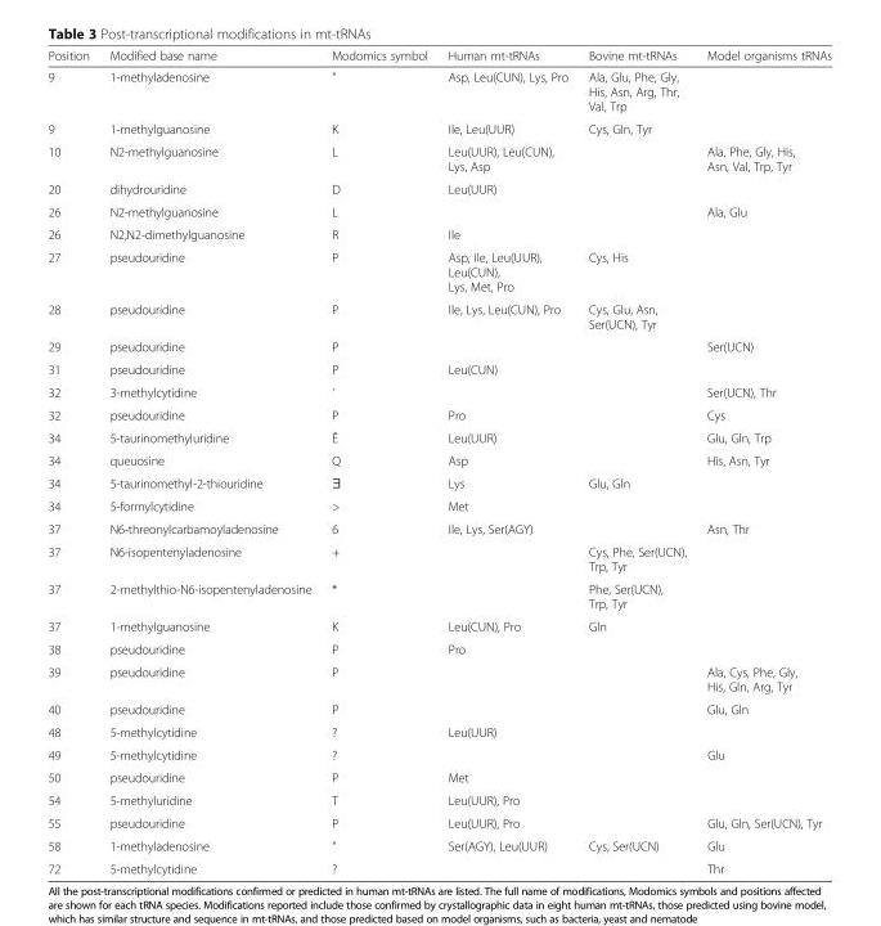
<table><thead><tr><td>Position</td><td>Modified base name</td><td>Modomics symbol</td><td>Human mt-tRNAs</td><td>Bovine mt-tRNAs</td><td>Model organisms tRNAs</td></tr></thead><tbody><tr><td>9</td><td>1-methyladenosine</td><td>”</td><td>Asp, Leu(CUN), Lys, Pro</td><td>Ala, Glu, Phe, Gly, His, Asn, Arg, Thr, Val, Trp</td><td></td></tr><tr><td>9</td><td>1-methylguanosine</td><td>K</td><td>Ile, Leu(UUR)</td><td>Cys, Gln, Tyr</td><td></td></tr><tr><td>10</td><td>N2-methylguanosine</td><td>L</td><td>Leu(UUR), Leu(CUN), Lys, Asp</td><td></td><td>Ala, Phe, Gly, His, Asn, Val, Trp, Tyr</td></tr><tr><td>20</td><td>dihydrouridine</td><td>D</td><td>Leu(UUR)</td><td></td><td></td></tr><tr><td>26</td><td>N2-methylguanosine</td><td>L</td><td></td><td></td><td>Ala, Glu</td></tr><tr><td>26</td><td>N2,N2-dimethylguanosine</td><td>R</td><td>Ile</td><td></td><td></td></tr><tr><td>27</td><td>pseudouridine</td><td>P</td><td>Asp, Ile, Leu(UUR), Leu(CUN), Lys, Met, Pro</td><td>Cys, His</td><td></td></tr><tr><td>28</td><td>pseudouridine</td><td>P</td><td>Ile, Lys, Leu(CUN), Pro</td><td>Cys, Glu, Asn, Ser(UCN), Tyr</td><td></td></tr><tr><td>29</td><td>pseudouridine</td><td>P</td><td></td><td></td><td>Ser(UCN)</td></tr><tr><td>31</td><td>pseudouridine</td><td>P</td><td>Leu(CUN)</td><td></td><td></td></tr><tr><td>32</td><td>3-methylcytidine</td><td>’</td><td></td><td></td><td>Ser(UCN), Thr</td></tr><tr><td>32</td><td>pseudouridine</td><td>P</td><td>Pro</td><td></td><td>Cys</td></tr><tr><td>34</td><td>5-taurinomethyluridine</td><td>Ê</td><td>Leu(UUR)</td><td></td><td>Glu, Gln, Trp</td></tr><tr><td>34</td><td>queuosine</td><td>Q</td><td>Asp</td><td></td><td>His, Asn, Tyr</td></tr><tr><td>34</td><td>5-taurinomethyl-2-thiouridine</td><td>Ǝ</td><td>Lys</td><td>Glu, Gln</td><td></td></tr><tr><td>34</td><td>5-formylcytidine</td><td>&gt;</td><td>Met</td><td></td><td></td></tr><tr><td>37</td><td>N6-threonylcarbamoyladenosine</td><td>6</td><td>Ile, Lys, Ser(AGY)</td><td></td><td>Asn, Thr</td></tr><tr><td>37</td><td>N6-isopentenyladenosine</td><td>+</td><td></td><td>Cys, Phe, Ser(UCN), Trp, Tyr</td><td></td></tr><tr><td>37</td><td>2-methylthio-N6-isopentenyladenosine</td><td>*</td><td></td><td>Phe, Ser(UCN), Trp, Tyr</td><td></td></tr><tr><td>37</td><td>1-methylguanosine</td><td>K</td><td>Leu(CUN), Pro</td><td>Gln</td><td></td></tr><tr><td>38</td><td>pseudouridine</td><td>P</td><td>Pro</td><td></td><td></td></tr><tr><td>39</td><td>pseudouridine</td><td>P</td><td></td><td></td><td>Ala, Cys, Phe, Gly, His, Gln, Arg, Tyr</td></tr><tr><td>40</td><td>pseudouridine</td><td>P</td><td></td><td></td><td>Glu, Gln</td></tr><tr><td>48</td><td>5-methylcytidine</td><td>?</td><td>Leu(UUR)</td><td></td><td></td></tr><tr><td>49</td><td>5-methylcytidine</td><td>?</td><td></td><td></td><td>Glu</td></tr><tr><td>50</td><td>pseudouridine</td><td>P</td><td>Met</td><td></td><td></td></tr><tr><td>54</td><td>5-methyluridine</td><td>T</td><td>Leu(UUR), Pro</td><td></td><td></td></tr><tr><td>55</td><td>pseudouridine</td><td>P</td><td>Leu(UUR), Pro</td><td></td><td>Glu, Gln, Ser(UCN), Tyr</td></tr><tr><td>58</td><td>1-methyladenosine</td><td>”</td><td>Ser(AGY), Leu(UUR)</td><td>Cys, Ser(UCN)</td><td>Glu</td></tr><tr><td>72</td><td>5-methylcytidine</td><td>?</td><td></td><td></td><td>Thr</td></tr></tbody></table>